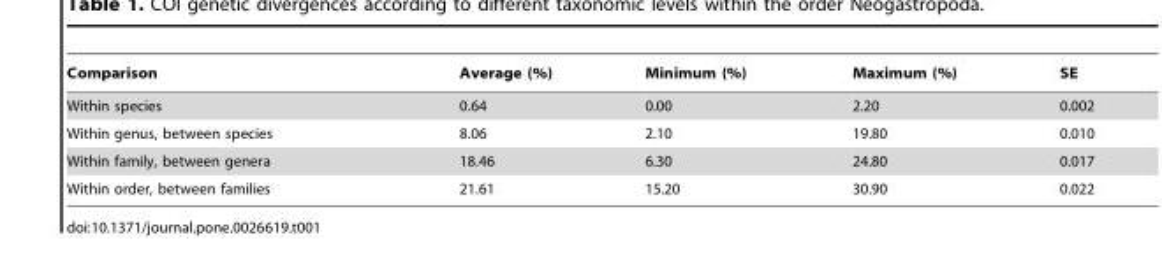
<table><thead><tr><td>Comparison</td><td>Average (%)</td><td>Minimum (%)</td><td>Maximum (%)</td><td>SE</td></tr></thead><tbody><tr><td>Within species</td><td>0.64</td><td>0.00</td><td>2.20</td><td>0.002</td></tr><tr><td>Within genus, between species</td><td>8.06</td><td>2.10</td><td>19.80</td><td>0.010</td></tr><tr><td>Within family, between genera</td><td>18.46</td><td>6.30</td><td>24.80</td><td>0.017</td></tr><tr><td>Within order, between families</td><td>21.61</td><td>15.20</td><td>30.90</td><td>0.022</td></tr></tbody></table>